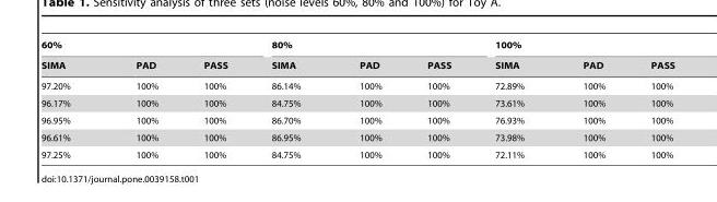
<table><thead><tr><td colspan="3">60%</td><td colspan="3">80%</td><td colspan="3">100%</td></tr><tr><td>SIMA</td><td>PAD</td><td>PASS</td><td>SIMA</td><td>PAD</td><td>PASS</td><td>SIMA</td><td>PAD</td><td>PASS</td></tr></thead><tbody><tr><td>97.20%</td><td>100%</td><td>100%</td><td>86.14%</td><td>100%</td><td>100%</td><td>72.89%</td><td>100%</td><td>100%</td></tr><tr><td>96.17%</td><td>100%</td><td>100%</td><td>84.75%</td><td>100%</td><td>100%</td><td>73.61%</td><td>100%</td><td>100%</td></tr><tr><td>96.95%</td><td>100%</td><td>100%</td><td>86.70%</td><td>100%</td><td>100%</td><td>76.93%</td><td>100%</td><td>100%</td></tr><tr><td>96.61%</td><td>100%</td><td>100%</td><td>86.95%</td><td>100%</td><td>100%</td><td>73.98%</td><td>100%</td><td>100%</td></tr><tr><td>97.25%</td><td>100%</td><td>100%</td><td>84.75%</td><td>100%</td><td>100%</td><td>72.11%</td><td>100%</td><td>100%</td></tr></tbody></table>